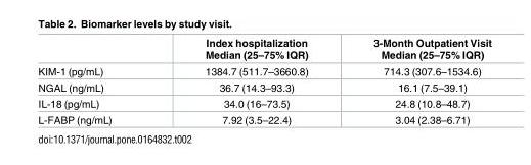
<table><thead><tr><td></td><td>Index hospitalization Median (25–75% IQR)</td><td>3-Month Outpatient Visit Median (25–75% IQR)</td></tr></thead><tbody><tr><td>KIM-1 (pg/mL)</td><td>1384.7 (511.7–3660.8)</td><td>714.3 (307.6–1534.6)</td></tr><tr><td>NGAL (ng/mL)</td><td>36.7 (14.3–93.3)</td><td>16.1 (7.5–39.1)</td></tr><tr><td>IL-18 (pg/mL)</td><td>34.0 (16–73.5)</td><td>24.8 (10.8–48.7)</td></tr><tr><td>L-FABP (ng/mL)</td><td>7.92 (3.5–22.4)</td><td>3.04 (2.38–6.71)</td></tr></tbody></table>